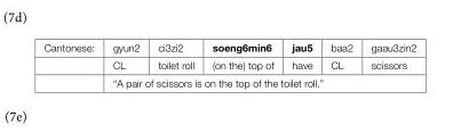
<table><tbody><tr><td rowspan="3">Cantonese:</td><td>gyun2</td><td>ci3zi2</td><td>soeng6min6</td><td>jau5</td><td>baa2</td><td>gaau3zin2</td></tr><tr><td>CL</td><td>toilet roll</td><td>(on the) top of</td><td>have</td><td>CL</td><td>scissors</td></tr><tr><td colspan="6">“A pair of scissors is on the top of the toilet roll.”</td></tr></tbody></table>